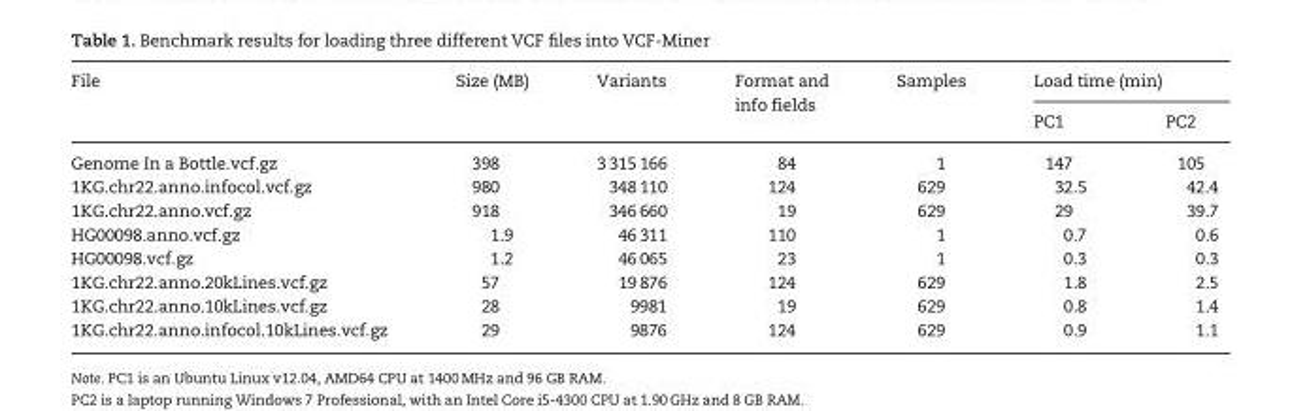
<table><thead><tr><td rowspan="2">File</td><td rowspan="2">Size (MB)</td><td rowspan="2">Variants</td><td rowspan="2">Format and info fields</td><td rowspan="2">Samples</td><td colspan="2">Load time (min)</td></tr><tr><td>PC1</td><td>PC2</td></tr></thead><tbody><tr><td>Genome In a Bottle.vcf.gz</td><td>398</td><td>3 315 166</td><td>84</td><td>1</td><td>147</td><td>105</td></tr><tr><td>1KG.chr22.anno.infocol.vcf.gz</td><td>980</td><td>348 110</td><td>124</td><td>629</td><td>32.5</td><td>42.4</td></tr><tr><td>1KG.chr22.anno.vcf.gz</td><td>918</td><td>346 660</td><td>19</td><td>629</td><td>29</td><td>39.7</td></tr><tr><td>HG00098.anno.vcf.gz</td><td>1.9</td><td>46 311</td><td>110</td><td>1</td><td>0.7</td><td>0.6</td></tr><tr><td>HG00098.vcf.gz</td><td>1.2</td><td>46 065</td><td>23</td><td>1</td><td>0.3</td><td>0.3</td></tr><tr><td>1KG.chr22.anno.20kLines.vcf.gz</td><td>57</td><td>19 876</td><td>124</td><td>629</td><td>1.8</td><td>2.5</td></tr><tr><td>1KG.chr22.anno.10kLines.vcf.gz</td><td>28</td><td>9981</td><td>19</td><td>629</td><td>0.8</td><td>1.4</td></tr><tr><td>1KG.chr22.anno.infocol.10kLines.vcf.gz</td><td>29</td><td>9876</td><td>124</td><td>629</td><td>0.9</td><td>1.1</td></tr></tbody></table>